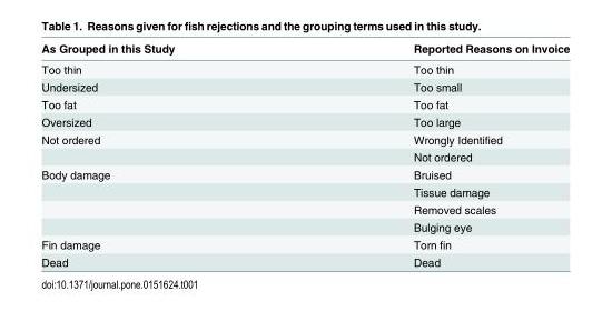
<table><thead><tr><td>As Grouped in this Study</td><td>Reported Reasons on Invoice</td></tr></thead><tbody><tr><td>Too thin</td><td>Too thin</td></tr><tr><td>Undersized</td><td>Too small</td></tr><tr><td>Too fat</td><td>Too fat</td></tr><tr><td>Oversized</td><td>Too large</td></tr><tr><td rowspan="2">Not ordered</td><td>Wrongly Identified</td></tr><tr><td>Not ordered</td></tr><tr><td rowspan="4">Body damage</td><td>Bruised</td></tr><tr><td>Tissue damage</td></tr><tr><td>Removed scales</td></tr><tr><td>Bulging eye</td></tr><tr><td>Fin damage</td><td>Torn fin</td></tr><tr><td>Dead</td><td>Dead</td></tr></tbody></table>